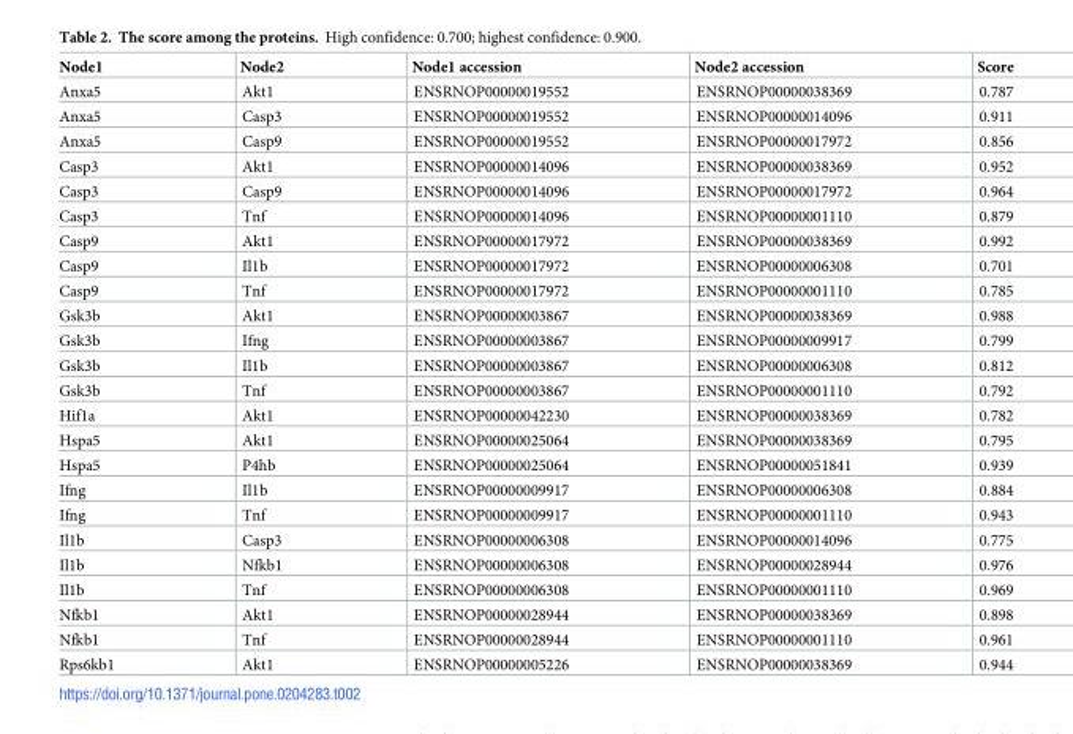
<table><thead><tr><td>Node1</td><td>Node2</td><td>Node1 accession</td><td>Node2 accession</td><td>Score</td></tr></thead><tbody><tr><td>Anxa5</td><td>Akt1</td><td>ENSRNOP00000019552</td><td>ENSRNOP00000038369</td><td>0.787</td></tr><tr><td>Anxa5</td><td>Casp3</td><td>ENSRNOP00000019552</td><td>ENSRNOP00000014096</td><td>0.911</td></tr><tr><td>Anxa5</td><td>Casp9</td><td>ENSRNOP00000019552</td><td>ENSRNOP00000017972</td><td>0.856</td></tr><tr><td>Casp3</td><td>Akt1</td><td>ENSRNOP00000014096</td><td>ENSRNOP00000038369</td><td>0.952</td></tr><tr><td>Casp3</td><td>Casp9</td><td>ENSRNOP00000014096</td><td>ENSRNOP00000017972</td><td>0.964</td></tr><tr><td>Casp3</td><td>Tnf</td><td>ENSRNOP00000014096</td><td>ENSRNOP00000001110</td><td>0.879</td></tr><tr><td>Casp9</td><td>Akt1</td><td>ENSRNOP00000017972</td><td>ENSRNOP00000038369</td><td>0.992</td></tr><tr><td>Casp9</td><td>Il1b</td><td>ENSRNOP00000017972</td><td>ENSRNOP00000006308</td><td>0.701</td></tr><tr><td>Casp9</td><td>Tnf</td><td>ENSRNOP00000017972</td><td>ENSRNOP00000001110</td><td>0.785</td></tr><tr><td>Gsk3b</td><td>Akt1</td><td>ENSRNOP00000003867</td><td>ENSRNOP00000038369</td><td>0.988</td></tr><tr><td>Gsk3b</td><td>Ifng</td><td>ENSRNOP00000003867</td><td>ENSRNOP00000009917</td><td>0.799</td></tr><tr><td>Gsk3b</td><td>Il1b</td><td>ENSRNOP00000003867</td><td>ENSRNOP00000006308</td><td>0.812</td></tr><tr><td>Gsk3b</td><td>Tnf</td><td>ENSRNOP00000003867</td><td>ENSRNOP00000001110</td><td>0.792</td></tr><tr><td>Hif1a</td><td>Akt1</td><td>ENSRNOP00000042230</td><td>ENSRNOP00000038369</td><td>0.782</td></tr><tr><td>Hspa5</td><td>Akt1</td><td>ENSRNOP00000025064</td><td>ENSRNOP00000038369</td><td>0.795</td></tr><tr><td>Hspa5</td><td>P4hb</td><td>ENSRNOP00000025064</td><td>ENSRNOP00000051841</td><td>0.939</td></tr><tr><td>Ifng</td><td>Il1b</td><td>ENSRNOP00000009917</td><td>ENSRNOP00000006308</td><td>0.884</td></tr><tr><td>Ifng</td><td>Tnf</td><td>ENSRNOP00000009917</td><td>ENSRNOP00000001110</td><td>0.943</td></tr><tr><td>Il1b</td><td>Casp3</td><td>ENSRNOP00000006308</td><td>ENSRNOP00000014096</td><td>0.775</td></tr><tr><td>Il1b</td><td>Nfkb1</td><td>ENSRNOP00000006308</td><td>ENSRNOP00000028944</td><td>0.976</td></tr><tr><td>Il1b</td><td>Tnf</td><td>ENSRNOP00000006308</td><td>ENSRNOP00000001110</td><td>0.969</td></tr><tr><td>Nfkb1</td><td>Akt1</td><td>ENSRNOP00000028944</td><td>ENSRNOP00000038369</td><td>0.898</td></tr><tr><td>Nfkb1</td><td>Tnf</td><td>ENSRNOP00000028944</td><td>ENSRNOP00000001110</td><td>0.961</td></tr><tr><td>Rps6kb1</td><td>Akt1</td><td>ENSRNOP00000005226</td><td>ENSRNOP00000038369</td><td>0.944</td></tr></tbody></table>